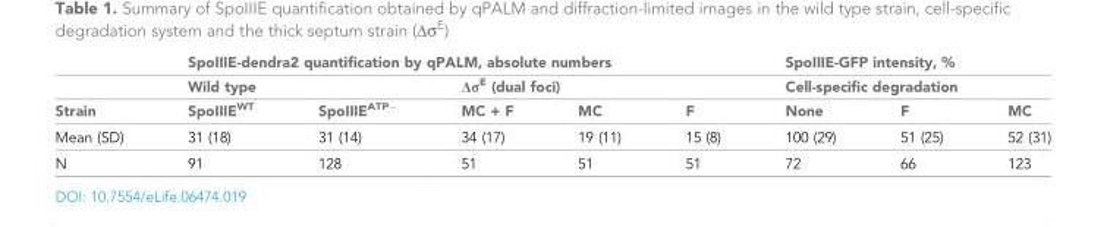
<table><thead><tr><td rowspan="3">Strain</td><td colspan="5">SpoIIIE-dendra2 quantification by qPALM, absolute numbers</td><td rowspan="2" colspan="3">SpoIIIE-GFP intensity, % Cell-specific degradation</td></tr><tr><td colspan="2">Wild type</td><td colspan="3">Δσ<sup>E</sup> (dual foci)</td></tr><tr><td>SpoIIIE<sup>WT</sup></td><td>SpoIIIE<sup>ATP−</sup></td><td>MC + F</td><td>MC</td><td>F</td><td>None</td><td>F</td><td>MC</td></tr></thead><tbody><tr><td>Mean (SD)</td><td>31 (18)</td><td>31 (14)</td><td>34 (17)</td><td>19 (11)</td><td>15 (8)</td><td>100 (29)</td><td>51 (25)</td><td>52 (31)</td></tr><tr><td>N</td><td>91</td><td>128</td><td>51</td><td>51</td><td>51</td><td>72</td><td>66</td><td>123</td></tr></tbody></table>